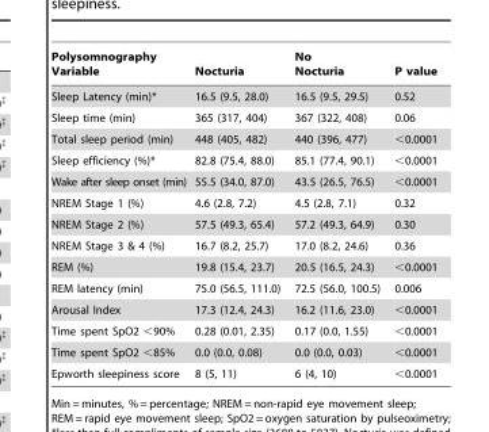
<table><thead><tr><td>Polysomnography Variable</td><td>Nocturia</td><td>No Nocturia</td><td>P value</td></tr></thead><tbody><tr><td>Sleep Latency (min)*</td><td>16.5 (9.5, 28.0)</td><td>16.5 (9.5, 29.5)</td><td>0.52</td></tr><tr><td>Sleep time (min)</td><td>365 (317, 404)</td><td>367 (322, 408)</td><td>0.06</td></tr><tr><td>Total sleep period (min)</td><td>448 (405, 482)</td><td>440 (396, 477)</td><td>&lt;0.0001</td></tr><tr><td>Sleep efficiency (%)*</td><td>82.8 (75.4, 88.0)</td><td>85.1 (77.4, 90.1)</td><td>&lt;0.0001</td></tr><tr><td>Wake after sleep onset (min)</td><td>55.5 (34.0, 87.0)</td><td>43.5 (26.5, 76.5)</td><td>&lt;0.0001</td></tr><tr><td>NREM Stage 1 (%)</td><td>4.6 (2.8, 7.2)</td><td>4.5 (2.8, 7.1)</td><td>0.32</td></tr><tr><td>NREM Stage 2 (%)</td><td>57.5 (49.3, 65.4)</td><td>57.2 (49.3, 64.9)</td><td>0.30</td></tr><tr><td>NREM Stage 3 &amp; 4 (%)</td><td>16.7 (8.2, 25.7)</td><td>17.0 (8.2, 24.6)</td><td>0.36</td></tr><tr><td>REM (%)</td><td>19.8 (15.4, 23.7)</td><td>20.5 (16.5, 24.3)</td><td>&lt;0.0001</td></tr><tr><td>REM latency (min)</td><td>75.0 (56.5, 111.0)</td><td>72.5 (56.0, 100.5)</td><td>0.006</td></tr><tr><td>Arousal Index</td><td>17.3 (12.4, 24.3)</td><td>16.2 (11.6, 23.0)</td><td>&lt;0.0001</td></tr><tr><td>Time spent SpO2 &lt;90%</td><td>0.28 (0.01, 2.35)</td><td>0.17 (0.0, 1.55)</td><td>&lt;0.0001</td></tr><tr><td>Time spent SpO2 &lt;85%</td><td>0.0 (0.0, 0.08)</td><td>0.0 (0.0, 0.03)</td><td>&lt;0.0001</td></tr><tr><td>Epworth sleepiness score</td><td>8 (5, 11)</td><td>6 (4, 10)</td><td>&lt;0.0001</td></tr></tbody></table>